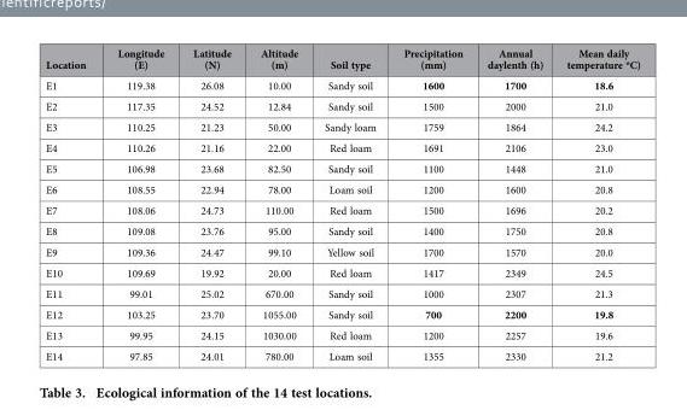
<table><thead><tr><td>Location</td><td>Longitude (E)</td><td>Latitude (N)</td><td>Altitude (m)</td><td>Soil type</td><td>Precipitation (mm)</td><td>Annual daylenth (h)</td><td>Mean daily temperature <sup>o</sup>C)</td></tr></thead><tbody><tr><td>E1</td><td>119.38</td><td>26.08</td><td>10.00</td><td>Sandy soil</td><td>1600</td><td>1700</td><td>18.6</td></tr><tr><td>E2</td><td>117.35</td><td>24.52</td><td>12.84</td><td>Sandy soil</td><td>1500</td><td>2000</td><td>21.0</td></tr><tr><td>E3</td><td>110.25</td><td>21.23</td><td>50.00</td><td>Sandy loam</td><td>1759</td><td>1864</td><td>24.2</td></tr><tr><td>E4</td><td>110.26</td><td>21.16</td><td>22.00</td><td>Red loam</td><td>1691</td><td>2106</td><td>23.0</td></tr><tr><td>E5</td><td>106.98</td><td>23.68</td><td>82.50</td><td>Sandy soil</td><td>1100</td><td>1448</td><td>21.0</td></tr><tr><td>E6</td><td>108.55</td><td>22.94</td><td>78.00</td><td>Loam soil</td><td>1200</td><td>1600</td><td>20.8</td></tr><tr><td>E7</td><td>108.06</td><td>24.73</td><td>110.00</td><td>Red loam</td><td>1500</td><td>1696</td><td>20.2</td></tr><tr><td>E8</td><td>109.08</td><td>23.76</td><td>95.00</td><td>Sandy soil</td><td>1400</td><td>1750</td><td>20.8</td></tr><tr><td>E9</td><td>109.36</td><td>24.47</td><td>99.10</td><td>Yellow soil</td><td>1700</td><td>1570</td><td>20.0</td></tr><tr><td>E10</td><td>109.69</td><td>19.92</td><td>20.00</td><td>Red loam</td><td>1417</td><td>2349</td><td>24.5</td></tr><tr><td>E11</td><td>99.01</td><td>25.02</td><td>670.00</td><td>Sandy soil</td><td>1000</td><td>2307</td><td>21.3</td></tr><tr><td>E12</td><td>103.25</td><td>23.70</td><td>1055.00</td><td>Sandy soil</td><td>700</td><td>2200</td><td>19.8</td></tr><tr><td>E13</td><td>99.95</td><td>24.15</td><td>1030.00</td><td>Red loam</td><td>1200</td><td>2257</td><td>19.6</td></tr><tr><td>E14</td><td>97.85</td><td>24.01</td><td>780.00</td><td>Loam soil</td><td>1355</td><td>2330</td><td>21.2</td></tr></tbody></table>